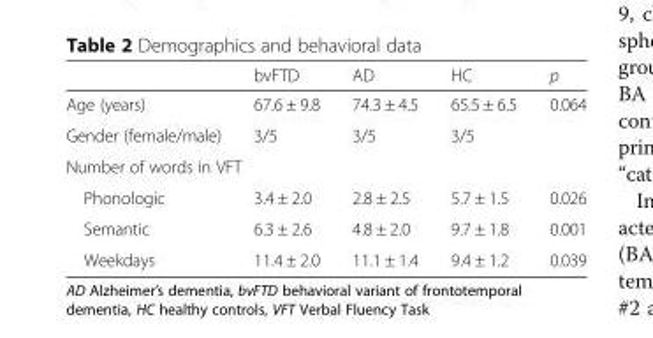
<table><thead><tr><td></td><td>bvFTD</td><td>AD</td><td>HC</td><td>p</td></tr></thead><tbody><tr><td>Age (years)</td><td>67.6 ± 9.8</td><td>74.3 ± 4.5</td><td>65.5 ± 6.5</td><td>0.064</td></tr><tr><td>Gender (female/male)</td><td>3/5</td><td>3/5</td><td>3/5</td><td></td></tr><tr><td colspan="5">Number of words in VFT</td></tr><tr><td>Phonologic</td><td>3.4 ± 2.0</td><td>2.8 ± 2.5</td><td>5.7 ± 1.5</td><td>0.026</td></tr><tr><td>Semantic</td><td>6.3 ± 2.6</td><td>4.8 ± 2.0</td><td>9.7 ± 1.8</td><td>0.001</td></tr><tr><td>Weekdays</td><td>11.4 ± 2.0</td><td>11.1 ± 1.4</td><td>9.4 ± 1.2</td><td>0.039</td></tr></tbody></table>